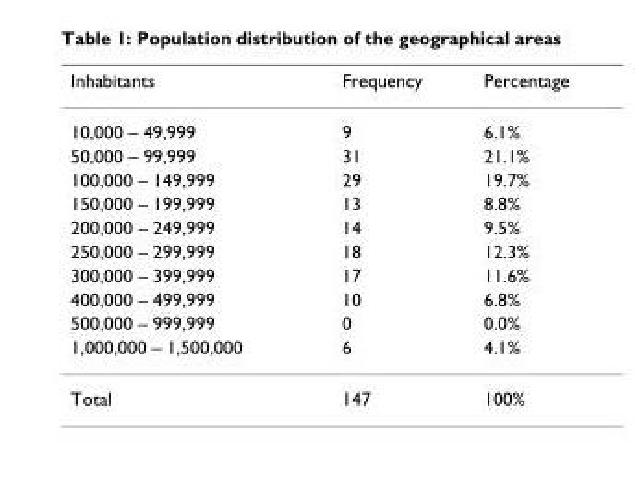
<table><thead><tr><td>Inhabitants</td><td>Frequency</td><td>Percentage</td></tr></thead><tbody><tr><td>10,000 – 49,999</td><td>9</td><td>6.1%</td></tr><tr><td>50,000 – 99,999</td><td>31</td><td>21.1%</td></tr><tr><td>100,000 – 149,999</td><td>29</td><td>19.7%</td></tr><tr><td>150,000 – 199,999</td><td>13</td><td>8.8%</td></tr><tr><td>200,000 – 249,999</td><td>14</td><td>9.5%</td></tr><tr><td>250,000 – 299,999</td><td>18</td><td>12.3%</td></tr><tr><td>300,000 – 399,999</td><td>17</td><td>11.6%</td></tr><tr><td>400,000 – 499,999</td><td>10</td><td>6.8%</td></tr><tr><td>500,000 – 999,999</td><td>0</td><td>0.0%</td></tr><tr><td>1,000,000 – 1,500,000</td><td>6</td><td>4.1%</td></tr><tr><td>Total</td><td>147</td><td>100%</td></tr></tbody></table>